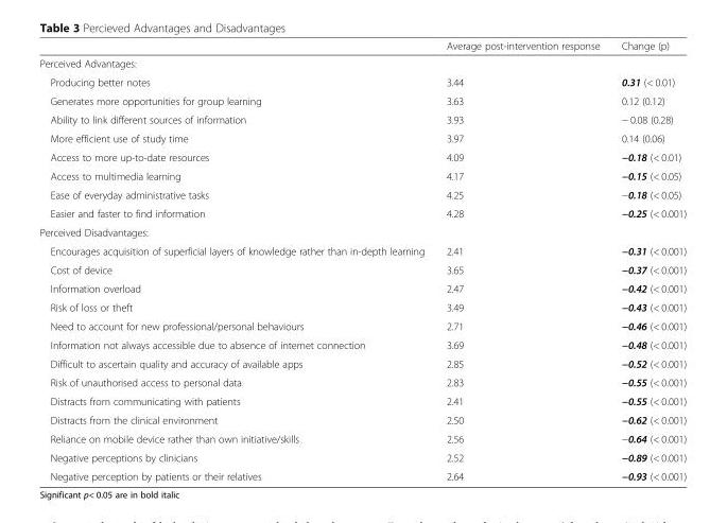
<table><thead><tr><td></td><td>Average post-intervention response</td><td>Change (p)</td></tr></thead><tbody><tr><td colspan="3">Perceived Advantages:</td></tr><tr><td>Producing better notes</td><td>3.44</td><td>0.31 (&lt; 0.01)</td></tr><tr><td>Generates more opportunities for group learning</td><td>3.63</td><td>0.12 (0.12)</td></tr><tr><td>Ability to link different sources of information</td><td>3.93</td><td>− 0.08 (0.28)</td></tr><tr><td>More efficient use of study time</td><td>3.97</td><td>0.14 (0.06)</td></tr><tr><td>Access to more up-to-date resources</td><td>4.09</td><td>−0.18 (&lt; 0.01)</td></tr><tr><td>Access to multimedia learning</td><td>4.17</td><td>−0.15 (&lt; 0.05)</td></tr><tr><td>Ease of everyday administrative tasks</td><td>4.25</td><td>−0.18 (&lt; 0.05)</td></tr><tr><td>Easier and faster to find information</td><td>4.28</td><td>−0.25 (&lt; 0.001)</td></tr><tr><td colspan="3">Perceived Disadvantages:</td></tr><tr><td>Encourages acquisition of superficial layers of knowledge rather than in-depth learning</td><td>2.41</td><td>−0.31 (&lt; 0.001)</td></tr><tr><td>Cost of device</td><td>3.65</td><td>−0.37 (&lt; 0.001)</td></tr><tr><td>Information overload</td><td>2.47</td><td>−0.42 (&lt; 0.001)</td></tr><tr><td>Risk of loss or theft</td><td>3.49</td><td>−0.43 (&lt; 0.001)</td></tr><tr><td>Need to account for new professional/personal behaviours</td><td>2.71</td><td>−0.46 (&lt; 0.001)</td></tr><tr><td>Information not always accessible due to absence of internet connection</td><td>3.69</td><td>−0.48 (&lt; 0.001)</td></tr><tr><td>Difficult to ascertain quality and accuracy of available apps</td><td>2.85</td><td>−0.52 (&lt; 0.001)</td></tr><tr><td>Risk of unauthorised access to personal data</td><td>2.83</td><td>−0.55 (&lt; 0.001)</td></tr><tr><td>Distracts from communicating with patients</td><td>2.41</td><td>−0.55 (&lt; 0.001)</td></tr><tr><td>Distracts from the clinical environment</td><td>2.50</td><td>−0.62 (&lt; 0.001)</td></tr><tr><td>Reliance on mobile device rather than own initiative/skills</td><td>2.56</td><td>−0.64 (&lt; 0.001)</td></tr><tr><td>Negative perceptions by clinicians</td><td>2.52</td><td>−0.89 (&lt; 0.001)</td></tr><tr><td>Negative perception by patients or their relatives</td><td>2.64</td><td>−0.93 (&lt; 0.001)</td></tr></tbody></table>